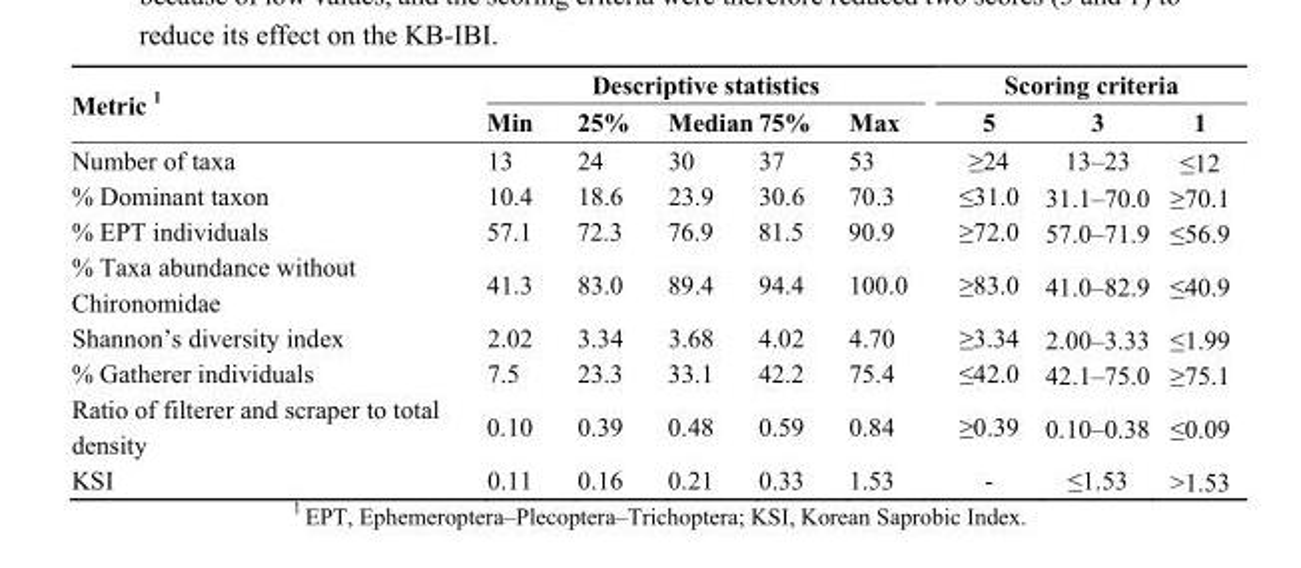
<table><thead><tr><td rowspan="2">Metric <sup>1</sup></td><td colspan="5">Descriptive statistics</td><td colspan="3">Scoring criteria</td></tr><tr><td>Min</td><td>25%</td><td>Median</td><td>75%</td><td>Max</td><td>5</td><td>3</td><td>1</td></tr></thead><tbody><tr><td>Number of taxa</td><td>13</td><td>24</td><td>30</td><td>37</td><td>53</td><td>≥24</td><td>13–23</td><td>≤12</td></tr><tr><td>% Dominant taxon</td><td>10.4</td><td>18.6</td><td>23.9</td><td>30.6</td><td>70.3</td><td>≤31.0</td><td>31.1–70.0</td><td>≥70.1</td></tr><tr><td>% EPT individuals</td><td>57.1</td><td>72.3</td><td>76.9</td><td>81.5</td><td>90.9</td><td>≥72.0</td><td>57.0–71.9</td><td>≤56.9</td></tr><tr><td>% Taxa abundance without Chironomidae</td><td>41.3</td><td>83.0</td><td>89.4</td><td>94.4</td><td>100.0</td><td>≥83.0</td><td>41.0–82.9</td><td>≤40.9</td></tr><tr><td>Shannon’s diversity index</td><td>2.02</td><td>3.34</td><td>3.68</td><td>4.02</td><td>4.70</td><td>≥3.34</td><td>2.00–3.33</td><td>≤1.99</td></tr><tr><td>% Gatherer individuals</td><td>7.5</td><td>23.3</td><td>33.1</td><td>42.2</td><td>75.4</td><td>≤42.0</td><td>42.1–75.0</td><td>≥75.1</td></tr><tr><td>Ratio of filterer and scraper to total density</td><td>0.10</td><td>0.39</td><td>0.48</td><td>0.59</td><td>0.84</td><td>≥0.39</td><td>0.10–0.38</td><td>≤0.09</td></tr><tr><td>KSI</td><td>0.11</td><td>0.16</td><td>0.21</td><td>0.33</td><td>1.53</td><td>-</td><td>≤1.53</td><td>&gt;1.53</td></tr></tbody></table>